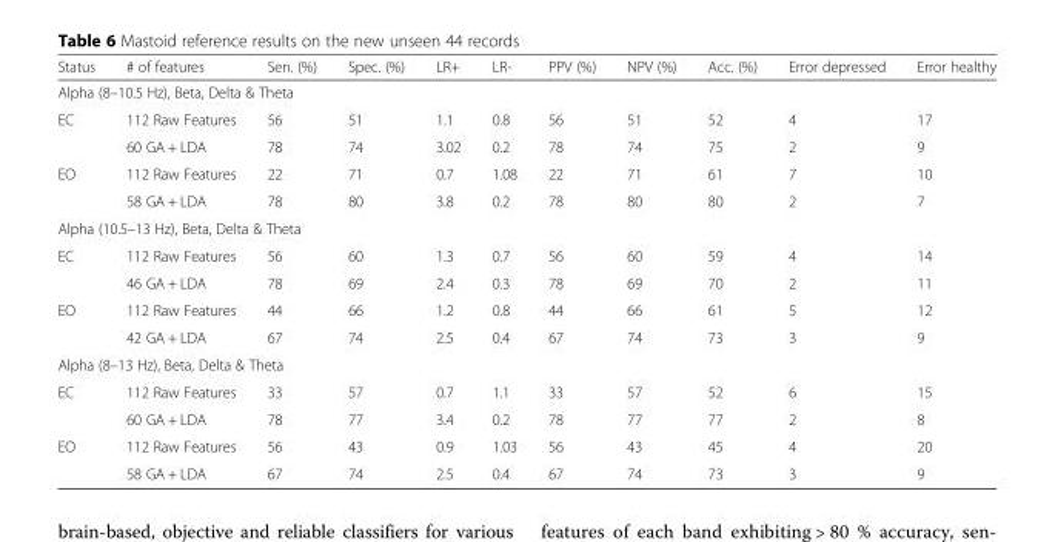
<table><thead><tr><td>Status</td><td># of features</td><td>Sen. (%)</td><td>Spec. (%)</td><td>LR+</td><td>LR-</td><td>PPV (%)</td><td>NPV (%)</td><td>Acc. (%)</td><td>Error depressed</td><td>Error healthy</td></tr></thead><tbody><tr><td colspan="11">Alpha (8–10.5 Hz), Beta, Delta &amp; Theta</td></tr><tr><td rowspan="2">EC</td><td>112 Raw Features</td><td>56</td><td>51</td><td>1.1</td><td>0.8</td><td>56</td><td>51</td><td>52</td><td>4</td><td>17</td></tr><tr><td>60 GA + LDA</td><td>78</td><td>74</td><td>3.02</td><td>0.2</td><td>78</td><td>74</td><td>75</td><td>2</td><td>9</td></tr><tr><td rowspan="2">EO</td><td>112 Raw Features</td><td>22</td><td>71</td><td>0.7</td><td>1.08</td><td>22</td><td>71</td><td>61</td><td>7</td><td>10</td></tr><tr><td>58 GA + LDA</td><td>78</td><td>80</td><td>3.8</td><td>0.2</td><td>78</td><td>80</td><td>80</td><td>2</td><td>7</td></tr><tr><td colspan="11">Alpha (10.5–13 Hz), Beta, Delta &amp; Theta</td></tr><tr><td rowspan="2">EC</td><td>112 Raw Features</td><td>56</td><td>60</td><td>1.3</td><td>0.7</td><td>56</td><td>60</td><td>59</td><td>4</td><td>14</td></tr><tr><td>46 GA + LDA</td><td>78</td><td>69</td><td>2.4</td><td>0.3</td><td>78</td><td>69</td><td>70</td><td>2</td><td>11</td></tr><tr><td rowspan="2">EO</td><td>112 Raw Features</td><td>44</td><td>66</td><td>1.2</td><td>0.8</td><td>44</td><td>66</td><td>61</td><td>5</td><td>12</td></tr><tr><td>42 GA + LDA</td><td>67</td><td>74</td><td>2.5</td><td>0.4</td><td>67</td><td>74</td><td>73</td><td>3</td><td>9</td></tr><tr><td colspan="11">Alpha (8–13 Hz), Beta, Delta &amp; Theta</td></tr><tr><td rowspan="2">EC</td><td>112 Raw Features</td><td>33</td><td>57</td><td>0.7</td><td>1.1</td><td>33</td><td>57</td><td>52</td><td>6</td><td>15</td></tr><tr><td>60 GA + LDA</td><td>78</td><td>77</td><td>3.4</td><td>0.2</td><td>78</td><td>77</td><td>77</td><td>2</td><td>8</td></tr><tr><td rowspan="2">EO</td><td>112 Raw Features</td><td>56</td><td>43</td><td>0.9</td><td>1.03</td><td>56</td><td>43</td><td>45</td><td>4</td><td>20</td></tr><tr><td>58 GA + LDA</td><td>67</td><td>74</td><td>2.5</td><td>0.4</td><td>67</td><td>74</td><td>73</td><td>3</td><td>9</td></tr></tbody></table>